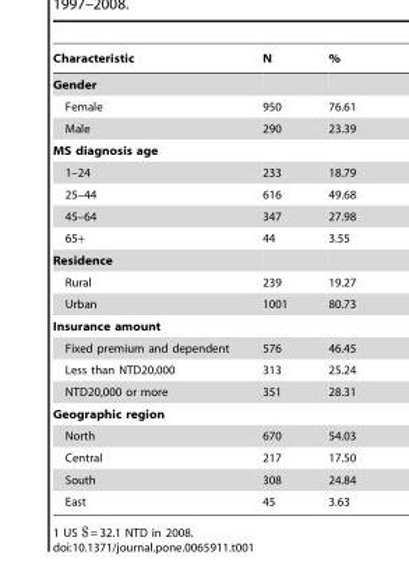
<table><thead><tr><td>Characteristic</td><td>N</td><td>%</td></tr></thead><tbody><tr><td colspan="3">Gender</td></tr><tr><td>Female</td><td>950</td><td>76.61</td></tr><tr><td>Male</td><td>290</td><td>23.39</td></tr><tr><td colspan="3">MS diagnosis age</td></tr><tr><td>1–24</td><td>233</td><td>18.79</td></tr><tr><td>25–44</td><td>616</td><td>49.68</td></tr><tr><td>45–64</td><td>347</td><td>27.98</td></tr><tr><td>65+</td><td>44</td><td>3.55</td></tr><tr><td colspan="3">Residence</td></tr><tr><td>Rural</td><td>239</td><td>19.27</td></tr><tr><td>Urban</td><td>1001</td><td>80.73</td></tr><tr><td colspan="3">Insurance amount</td></tr><tr><td>Fixed premium and dependent</td><td>576</td><td>46.45</td></tr><tr><td>Less than NTD20,000</td><td>313</td><td>25.24</td></tr><tr><td>NTD20,000 or more</td><td>351</td><td>28.31</td></tr><tr><td colspan="3">Geographic region</td></tr><tr><td>North</td><td>670</td><td>54.03</td></tr><tr><td>Central</td><td>217</td><td>17.50</td></tr><tr><td>South</td><td>308</td><td>24.84</td></tr><tr><td>East</td><td>45</td><td>3.63</td></tr></tbody></table>